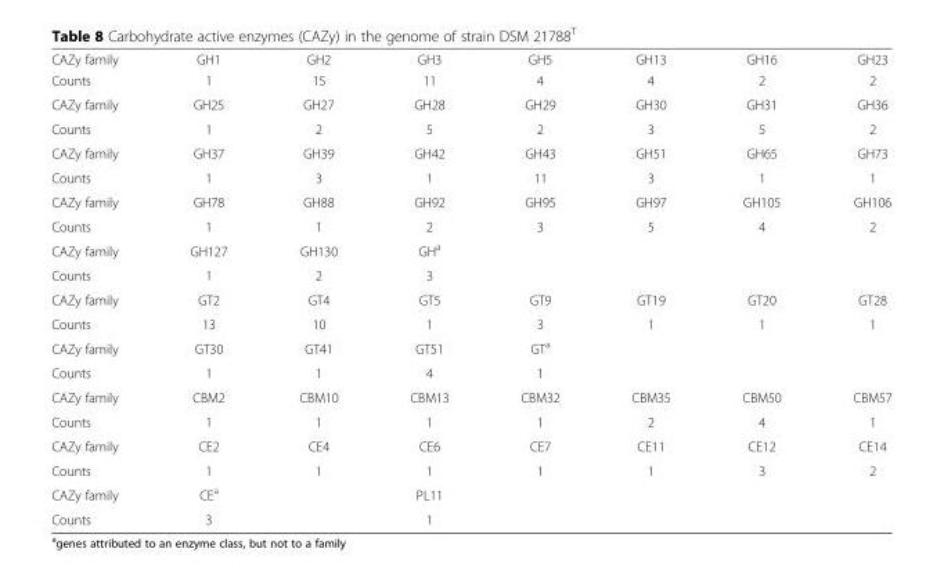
<table><thead><tr><td>CAZy family</td><td>GH1</td><td>GH2</td><td>GH3</td><td>GH5</td><td>GH13</td><td>GH16</td><td>GH23</td></tr></thead><tbody><tr><td>Counts</td><td>1</td><td>15</td><td>11</td><td>4</td><td>4</td><td>2</td><td>2</td></tr><tr><td>CAZy family</td><td>GH25</td><td>GH27</td><td>GH28</td><td>GH29</td><td>GH30</td><td>GH31</td><td>GH36</td></tr><tr><td>Counts</td><td>1</td><td>2</td><td>5</td><td>2</td><td>3</td><td>5</td><td>2</td></tr><tr><td>CAZy family</td><td>GH37</td><td>GH39</td><td>GH42</td><td>GH43</td><td>GH51</td><td>GH65</td><td>GH73</td></tr><tr><td>Counts</td><td>1</td><td>3</td><td>1</td><td>11</td><td>3</td><td>1</td><td>1</td></tr><tr><td>CAZy family</td><td>GH78</td><td>GH88</td><td>GH92</td><td>GH95</td><td>GH97</td><td>GH105</td><td>GH106</td></tr><tr><td>Counts</td><td>1</td><td>1</td><td>2</td><td>3</td><td>5</td><td>4</td><td>2</td></tr><tr><td>CAZy family</td><td>GH127</td><td>GH130</td><td>GH<sup>a</sup></td><td></td><td></td><td></td><td></td></tr><tr><td>Counts</td><td>1</td><td>2</td><td>3</td><td></td><td></td><td></td><td></td></tr><tr><td>CAZy family</td><td>GT2</td><td>GT4</td><td>GT5</td><td>GT9</td><td>GT19</td><td>GT20</td><td>GT28</td></tr><tr><td>Counts</td><td>13</td><td>10</td><td>1</td><td>3</td><td>1</td><td>1</td><td>1</td></tr><tr><td>CAZy family</td><td>GT30</td><td>GT41</td><td>GT51</td><td>GT<sup>a</sup></td><td></td><td></td><td></td></tr><tr><td>Counts</td><td>1</td><td>1</td><td>4</td><td>1</td><td></td><td></td><td></td></tr><tr><td>CAZy family</td><td>CBM2</td><td>CBM10</td><td>CBM13</td><td>CBM32</td><td>CBM35</td><td>CBM50</td><td>CBM57</td></tr><tr><td>Counts</td><td>1</td><td>1</td><td>1</td><td>1</td><td>2</td><td>4</td><td>1</td></tr><tr><td>CAZy family</td><td>CE2</td><td>CE4</td><td>CE6</td><td>CE7</td><td>CE11</td><td>CE12</td><td>CE14</td></tr><tr><td>Counts</td><td>1</td><td>1</td><td>1</td><td>1</td><td>1</td><td>3</td><td>2</td></tr><tr><td>CAZy family</td><td>CE<sup>a</sup></td><td></td><td>PL11</td><td></td><td></td><td></td><td></td></tr><tr><td>Counts</td><td>3</td><td></td><td>1</td><td></td><td></td><td></td><td></td></tr></tbody></table>